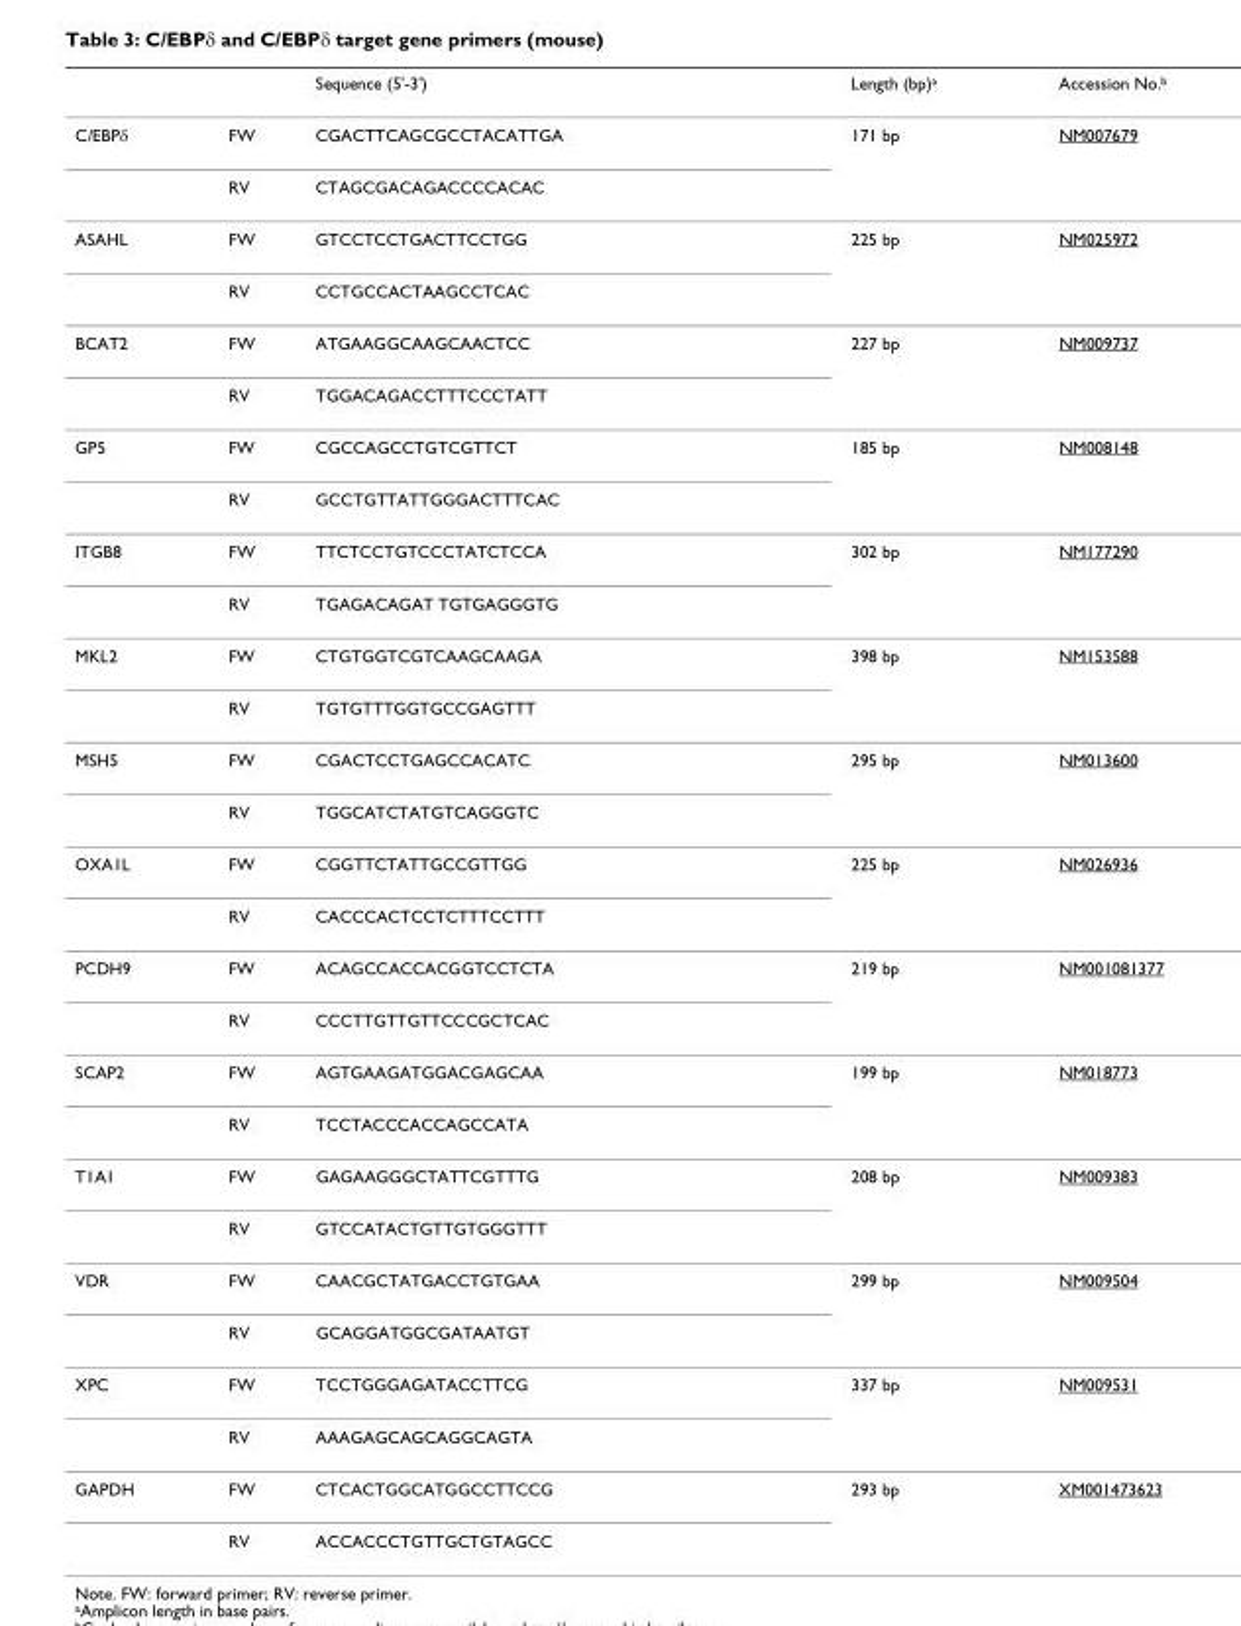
<table><thead><tr><td></td><td></td><td>Sequence (5&#x27;-3&#x27;)</td><td>Length (bp)<sup>a</sup></td><td>Accession No.<sup>b</sup></td></tr></thead><tbody><tr><td rowspan="2">C/EBPδ</td><td>FW</td><td>CGACTTCAGCGCCTACATTGA</td><td>171 bp</td><td>NM007679</td></tr><tr><td>RV</td><td>CTAGCGACAGACCCCACAC</td><td></td><td></td></tr><tr><td rowspan="2">ASAHL</td><td>FW</td><td>GTCCTCCTGACTTCCTGG</td><td>225 bp</td><td>NM025972</td></tr><tr><td>RV</td><td>CCTGCCACTAAGCCTCAC</td><td></td><td></td></tr><tr><td rowspan="2">BCAT2</td><td>FW</td><td>ATGAAGGCAAGCAACTCC</td><td>227 bp</td><td>NM009737</td></tr><tr><td>RV</td><td>TGGACAGACCTTTCCCTATT</td><td></td><td></td></tr><tr><td rowspan="2">GP5</td><td>FW</td><td>CGCCAGCCTGTCGTTCT</td><td>185 bp</td><td>NM008148</td></tr><tr><td>RV</td><td>GCCTGTTATTGGGACTTTCAC</td><td></td><td></td></tr><tr><td rowspan="2">ITGB8</td><td>FW</td><td>TTCTCCTGTCCCTATCTCCA</td><td>302 bp</td><td>NM177290</td></tr><tr><td>RV</td><td>TGAGACAGAT TGTGAGGGTG</td><td></td><td></td></tr><tr><td rowspan="2">MKL2</td><td>FW</td><td>CTGTGGTCGTCAAGCAAGA</td><td>398 bp</td><td>NM153588</td></tr><tr><td>RV</td><td>TGTGTTTGGTGCCGAGTTT</td><td></td><td></td></tr><tr><td rowspan="2">MSH5</td><td>FW</td><td>CGACTCCTGAGCCACATC</td><td>295 bp</td><td>NM013600</td></tr><tr><td>RV</td><td>TGGCATCTATGTCAGGGTC</td><td></td><td></td></tr><tr><td rowspan="2">OXA1L</td><td>FW</td><td>CGGTTCTATTGCCGTTGG</td><td>225 bp</td><td>NM026936</td></tr><tr><td>RV</td><td>CACCCACTCCTCTTTCCTTT</td><td></td><td></td></tr><tr><td rowspan="2">PCDH9</td><td>FW</td><td>ACAGCCACCACGGTCCTCTA</td><td>219 bp</td><td>NM001081377</td></tr><tr><td>RV</td><td>CCCTTGTTGTTCCCGCTCAC</td><td></td><td></td></tr><tr><td rowspan="2">SCAP2</td><td>FW</td><td>AGTGAAGATGGACGAGCAA</td><td>199 bp</td><td>NM018773</td></tr><tr><td>RV</td><td>TCCTACCCACCAGCCATA</td><td></td><td></td></tr><tr><td rowspan="2">T1A1</td><td>FW</td><td>GAGAAGGGCTATTCGTTTG</td><td>208 bp</td><td>NM009383</td></tr><tr><td>RV</td><td>GTCCATACTGTTGTGGGTTT</td><td></td><td></td></tr><tr><td rowspan="2">VDR</td><td>FW</td><td>CAACGCTATGACCTGTGAA</td><td>299 bp</td><td>NM009504</td></tr><tr><td>RV</td><td>GCAGGATGGCGATAATGT</td><td></td><td></td></tr><tr><td rowspan="2">XPC</td><td>FW</td><td>TCCTGGGAGATACCTTCG</td><td>337 bp</td><td>NM009531</td></tr><tr><td>RV</td><td>AAAGAGCAGCAGGCAGTA</td><td></td><td></td></tr><tr><td rowspan="2">GAPDH</td><td>FW</td><td>CTCACTGGCATGGCCTTCCG</td><td>293 bp</td><td>XM001473623</td></tr><tr><td>RV</td><td>ACCACCCTGTTGCTGTAGCC</td><td></td><td></td></tr></tbody></table>